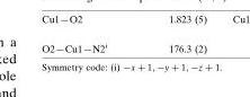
<table><tbody><tr><td>O2—Cu1—N2<sup>i</sup></td><td>176.3 (2)</td></tr></tbody></table>